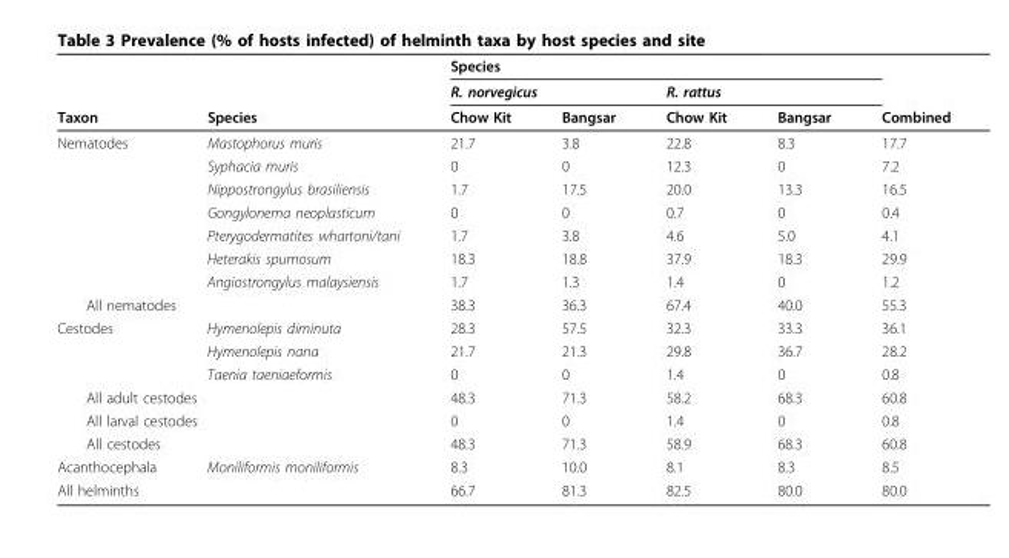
<table><thead><tr><td rowspan="3">Taxon</td><td rowspan="3">Species</td><td colspan="5">Species</td></tr><tr><td colspan="2">R. norvegicus</td><td colspan="3">R. rattus</td></tr><tr><td>Chow Kit</td><td>Bangsar</td><td>Chow Kit</td><td>Bangsar</td><td>Combined</td></tr></thead><tbody><tr><td rowspan="7">Nematodes</td><td>Mastophorus muris</td><td>21.7</td><td>3.8</td><td>22.8</td><td>8.3</td><td>17.7</td></tr><tr><td>Syphacia muris</td><td>0</td><td>0</td><td>12.3</td><td>0</td><td>7.2</td></tr><tr><td>Nippostrongylus brasiliensis</td><td>1.7</td><td>17.5</td><td>20.0</td><td>13.3</td><td>16.5</td></tr><tr><td>Gongylonema neoplasticum</td><td>0</td><td>0</td><td>0.7</td><td>0</td><td>0.4</td></tr><tr><td>Pterygodermatites whartoni/tani</td><td>1.7</td><td>3.8</td><td>4.6</td><td>5.0</td><td>4.1</td></tr><tr><td>Heterakis spumosum</td><td>18.3</td><td>18.8</td><td>37.9</td><td>18.3</td><td>29.9</td></tr><tr><td>Angiostrongylus malaysiensis</td><td>1.7</td><td>1.3</td><td>1.4</td><td>0</td><td>1.2</td></tr><tr><td colspan="2">All nematodes</td><td>38.3</td><td>36.3</td><td>67.4</td><td>40.0</td><td>55.3</td></tr><tr><td rowspan="3">Cestodes</td><td>Hymenolepis diminuta</td><td>28.3</td><td>57.5</td><td>32.3</td><td>33.3</td><td>36.1</td></tr><tr><td>Hymenolepis nana</td><td>21.7</td><td>21.3</td><td>29.8</td><td>36.7</td><td>28.2</td></tr><tr><td>Taenia taeniaeformis</td><td>0</td><td>0</td><td>1.4</td><td>0</td><td>0.8</td></tr><tr><td colspan="2">All adult cestodes</td><td>48.3</td><td>71.3</td><td>58.2</td><td>68.3</td><td>60.8</td></tr><tr><td colspan="2">All larval cestodes</td><td>0</td><td>0</td><td>1.4</td><td>0</td><td>0.8</td></tr><tr><td colspan="2">All cestodes</td><td>48.3</td><td>71.3</td><td>58.9</td><td>68.3</td><td>60.8</td></tr><tr><td>Acanthocephala</td><td>Moniliformis moniliformis</td><td>8.3</td><td>10.0</td><td>8.1</td><td>8.3</td><td>8.5</td></tr><tr><td>All helminths</td><td></td><td>66.7</td><td>81.3</td><td>82.5</td><td>80.0</td><td>80.0</td></tr></tbody></table>